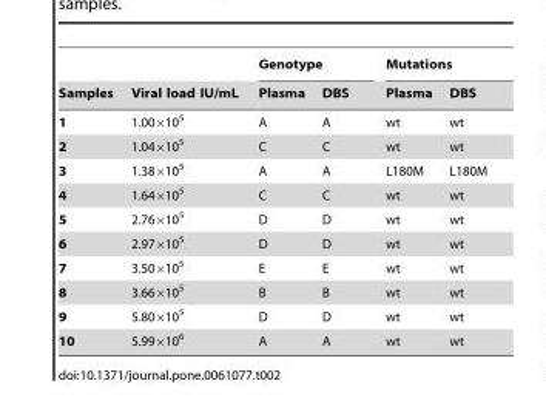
<table><thead><tr><td rowspan="2">Samples</td><td rowspan="2">Viral load IU/mL</td><td colspan="2">Genotype</td><td colspan="2">Mutations</td></tr><tr><td>Plasma</td><td>DBS</td><td>Plasma</td><td>DBS</td></tr></thead><tbody><tr><td>1</td><td>1.00×10<sup>5</sup></td><td>A</td><td>A</td><td>wt</td><td>wt</td></tr><tr><td>2</td><td>1.04×10<sup>5</sup></td><td>C</td><td>C</td><td>wt</td><td>wt</td></tr><tr><td>3</td><td>1.38×10<sup>5</sup></td><td>A</td><td>A</td><td>L180M</td><td>L180M</td></tr><tr><td>4</td><td>1.64×10<sup>5</sup></td><td>C</td><td>C</td><td>wt</td><td>wt</td></tr><tr><td>5</td><td>2.76×10<sup>5</sup></td><td>D</td><td>D</td><td>wt</td><td>wt</td></tr><tr><td>6</td><td>2.97×10<sup>5</sup></td><td>D</td><td>D</td><td>wt</td><td>wt</td></tr><tr><td>7</td><td>3.50×10<sup>5</sup></td><td>E</td><td>E</td><td>wt</td><td>wt</td></tr><tr><td>8</td><td>3.66×10<sup>5</sup></td><td>B</td><td>B</td><td>wt</td><td>wt</td></tr><tr><td>9</td><td>5.80×10<sup>5</sup></td><td>D</td><td>D</td><td>wt</td><td>wt</td></tr><tr><td>10</td><td>5.99×10<sup>6</sup></td><td>A</td><td>A</td><td>wt</td><td>wt</td></tr></tbody></table>